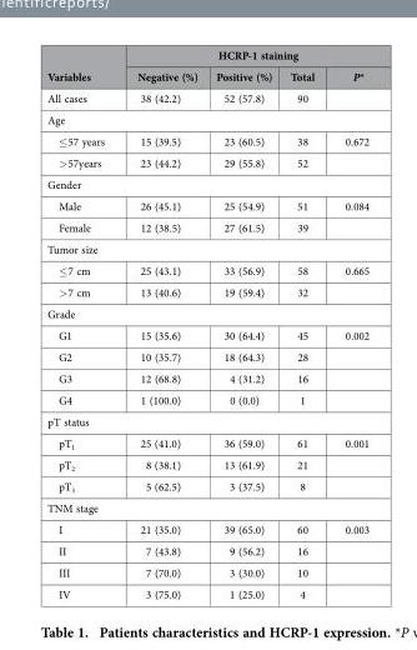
<table><thead><tr><td rowspan="2">Variables</td><td colspan="4">HCRP-1 staining</td></tr><tr><td>Negative (%)</td><td>Positive (%)</td><td>Total</td><td>P*</td></tr></thead><tbody><tr><td>All cases</td><td>38 (42.2)</td><td>52 (57.8)</td><td>90</td><td></td></tr><tr><td colspan="5">Age</td></tr><tr><td>≤ 57 years</td><td>15 (39.5)</td><td>23 (60.5)</td><td>38</td><td>0.672</td></tr><tr><td>&gt; 57years</td><td>23 (44.2)</td><td>29 (55.8)</td><td>52</td><td></td></tr><tr><td colspan="5">Gender</td></tr><tr><td>Male</td><td>26 (45.1)</td><td>25 (54.9)</td><td>51</td><td>0.084</td></tr><tr><td>Female</td><td>12 (38.5)</td><td>27 (61.5)</td><td>39</td><td></td></tr><tr><td colspan="5">Tumor size</td></tr><tr><td>≤ 7 cm</td><td>25 (43.1)</td><td>33 (56.9)</td><td>58</td><td>0.665</td></tr><tr><td>&gt; 7 cm</td><td>13 (40.6)</td><td>19 (59.4)</td><td>32</td><td></td></tr><tr><td colspan="5">Grade</td></tr><tr><td>G1</td><td>15 (35.6)</td><td>30 (64.4)</td><td>45</td><td>0.002</td></tr><tr><td>G2</td><td>10 (35.7)</td><td>18 (64.3)</td><td>28</td><td></td></tr><tr><td>G3</td><td>12 (68.8)</td><td>4 (31.2)</td><td>16</td><td></td></tr><tr><td>G4</td><td>1 (100.0)</td><td>0 (0.0)</td><td>1</td><td></td></tr><tr><td colspan="5">pT status</td></tr><tr><td>pT<sub>1</sub></td><td>25 (41.0)</td><td>36 (59.0)</td><td>61</td><td>0.001</td></tr><tr><td>pT<sub>2</sub></td><td>8 (38.1)</td><td>13 (61.9)</td><td>21</td><td></td></tr><tr><td>pT<sub>3</sub></td><td>5 (62.5)</td><td>3 (37.5)</td><td>8</td><td></td></tr><tr><td colspan="5">TNM stage</td></tr><tr><td>I</td><td>21 (35.0)</td><td>39 (65.0)</td><td>60</td><td>0.003</td></tr><tr><td>II</td><td>7 (43.8)</td><td>9 (56.2)</td><td>16</td><td></td></tr><tr><td>III</td><td>7 (70.0)</td><td>3 (30.0)</td><td>10</td><td></td></tr><tr><td>IV</td><td>3 (75.0)</td><td>1 (25.0)</td><td>4</td><td></td></tr></tbody></table>